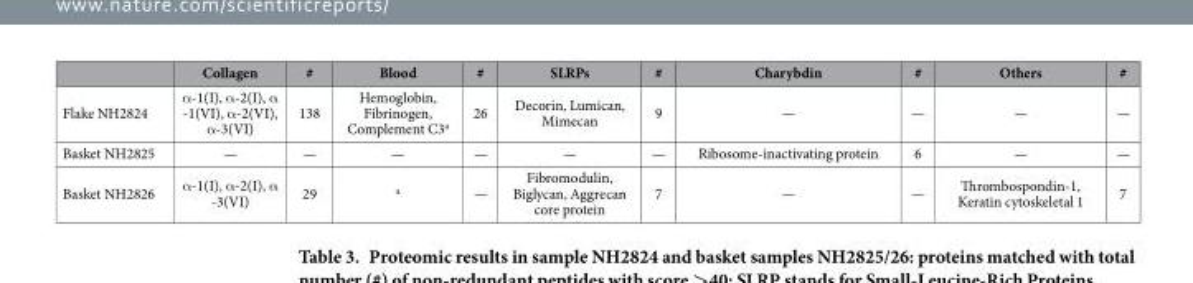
<table><thead><tr><td></td><td>Collagen</td><td>#</td><td>Blood</td><td>#</td><td>SLRPs</td><td>#</td><td>Charybdin</td><td>#</td><td>Others</td><td>#</td></tr></thead><tbody><tr><td>Flake NH2824</td><td>α -1(I), α -2(I), α -1(VI), α -2(VI), α -3(VI)</td><td>138</td><td>Hemoglobin, Fibrinogen, Complement C3<sup>a</sup></td><td>26</td><td>Decorin, Lumican, Mimecan</td><td>9</td><td>—</td><td>—</td><td>—</td><td>—</td></tr><tr><td>Basket NH2825</td><td>—</td><td>—</td><td>—</td><td>—</td><td>—</td><td>—</td><td>Ribosome-inactivating protein</td><td>6</td><td>—</td><td>—</td></tr><tr><td>Basket NH2826</td><td>α -1(I), α -2(I), α -3(VI)</td><td>29</td><td>a</td><td>—</td><td>Fibromodulin, Biglycan, Aggrecan core protein</td><td>7</td><td>—</td><td>—</td><td>Thrombospondin-1, Keratin cytoskeletal 1</td><td>7</td></tr></tbody></table>